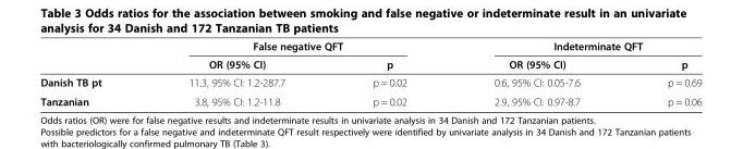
<table><thead><tr><td rowspan="2"></td><td colspan="2">False negative QFT</td><td colspan="2">Indeterminate QFT</td></tr><tr><td>OR (95% CI)</td><td>p</td><td>OR (95% CI)</td><td>p</td></tr></thead><tbody><tr><td>Danish TB pt</td><td>11.3, 95% CI: 1.2-287.7</td><td>p = 0.02</td><td>0.6, 95% CI: 0.05-7.6</td><td>p = 0.69</td></tr><tr><td>Tanzanian</td><td>3.8, 95% CI: 1.2-11.8</td><td>p = 0.02</td><td>2.9, 95% CI: 0.97-8.7</td><td>p = 0.06</td></tr></tbody></table>